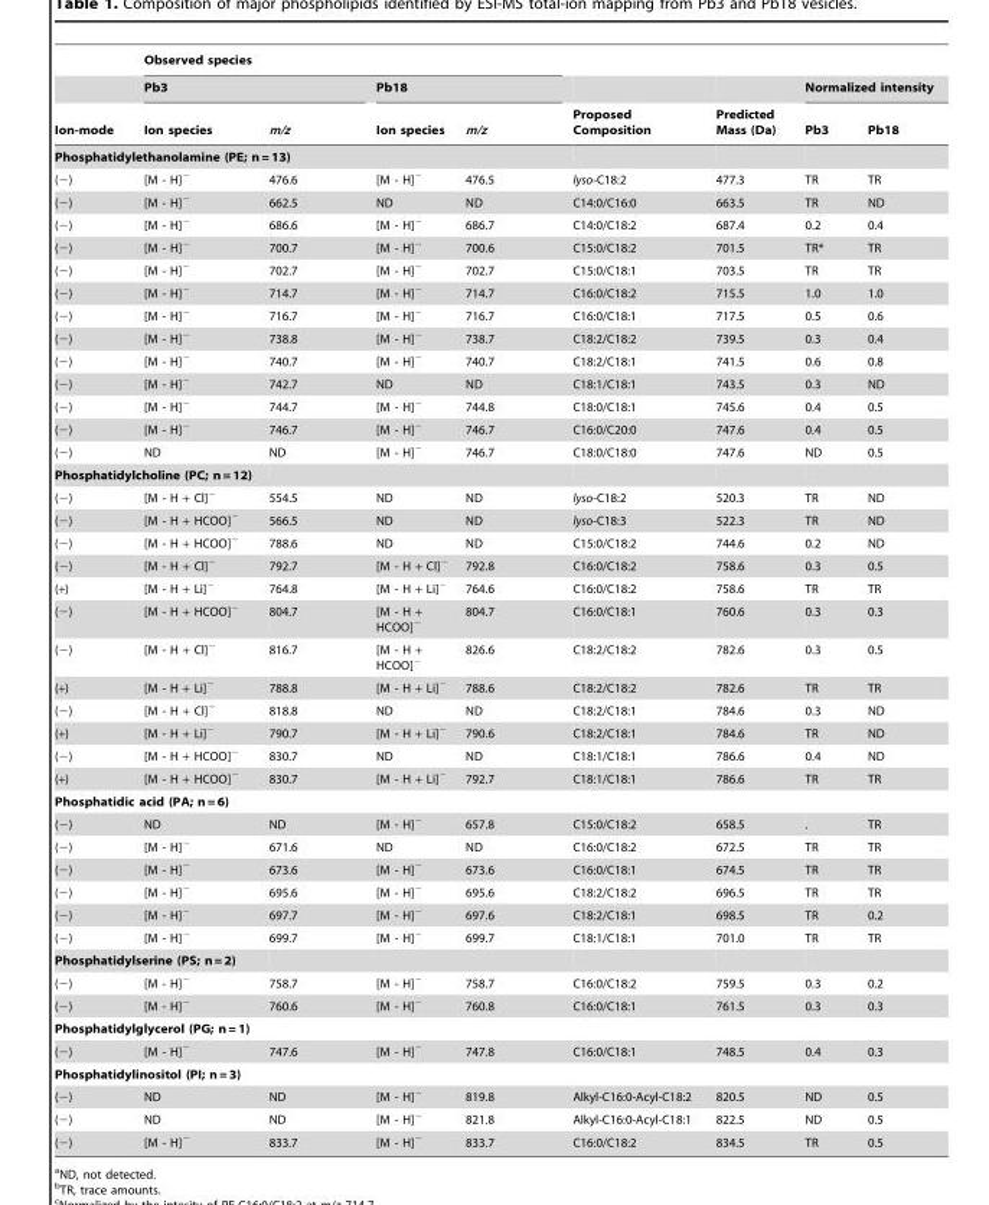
<table><thead><tr><td rowspan="3">Ion-mode</td><td colspan="4">Observed species</td><td rowspan="3">Proposed Composition</td><td rowspan="3">Predicted Mass (Da)</td><td></td><td></td></tr><tr><td colspan="2">Pb3</td><td colspan="2">Pb18</td><td colspan="2">Normalized intensity</td></tr><tr><td>Ion species</td><td>m/z</td><td>Ion species</td><td>m/z</td><td>Pb3</td><td>Pb18</td></tr></thead><tbody><tr><td colspan="9">Phosphatidylethanolamine (PE; n = 13)</td></tr><tr><td>(−)</td><td>[M - H]<sup>−</sup></td><td>476.6</td><td>[M - H]<sup>−</sup></td><td>476.5</td><td>lyso-C18:2</td><td>477.3</td><td>TR</td><td>TR</td></tr><tr><td>(−)</td><td>[M - H]<sup>−</sup></td><td>662.5</td><td>ND</td><td>ND</td><td>C14:0/C16:0</td><td>663.5</td><td>TR</td><td>ND</td></tr><tr><td>(−)</td><td>[M - H]<sup>−</sup></td><td>686.6</td><td>[M - H]<sup>−</sup></td><td>686.7</td><td>C14:0/C18:2</td><td>687.4</td><td>0.2</td><td>0.4</td></tr><tr><td>(−)</td><td>[M - H]<sup>−</sup></td><td>700.7</td><td>[M - H]<sup>−</sup></td><td>700.6</td><td>C15:0/C18:2</td><td>701.5</td><td>TR*</td><td>TR</td></tr><tr><td>(−)</td><td>[M - H]<sup>−</sup></td><td>702.7</td><td>[M - H]<sup>−</sup></td><td>702.7</td><td>C15:0/C18:1</td><td>703.5</td><td>TR</td><td>TR</td></tr><tr><td>(−)</td><td>[M - H]<sup>−</sup></td><td>714.7</td><td>[M - H]<sup>−</sup></td><td>714.7</td><td>C16:0/C18:2</td><td>715.5</td><td>1.0</td><td>1.0</td></tr><tr><td>(−)</td><td>[M - H]<sup>−</sup></td><td>716.7</td><td>[M - H]<sup>−</sup></td><td>716.7</td><td>C16:0/C18:1</td><td>717.5</td><td>0.5</td><td>0.6</td></tr><tr><td>(−)</td><td>[M - H]<sup>−</sup></td><td>738.8</td><td>[M - H]<sup>−</sup></td><td>738.7</td><td>C18:2/C18:2</td><td>739.5</td><td>0.3</td><td>0.4</td></tr><tr><td>(−)</td><td>[M - H]<sup>−</sup></td><td>740.7</td><td>[M - H]<sup>−</sup></td><td>740.7</td><td>C18:2/C18:1</td><td>741.5</td><td>0.6</td><td>0.8</td></tr><tr><td>(−)</td><td>[M - H]<sup>−</sup></td><td>742.7</td><td>ND</td><td>ND</td><td>C18:1/C18:1</td><td>743.5</td><td>0.3</td><td>ND</td></tr><tr><td>(−)</td><td>[M - H]<sup>−</sup></td><td>744.7</td><td>[M - H]<sup>−</sup></td><td>744.8</td><td>C18:0/C18:1</td><td>745.6</td><td>0.4</td><td>0.5</td></tr><tr><td>(−)</td><td>[M - H]<sup>−</sup></td><td>746.7</td><td>[M - H]<sup>−</sup></td><td>746.7</td><td>C16:0/C20:0</td><td>747.6</td><td>0.4</td><td>0.5</td></tr><tr><td>(−)</td><td>ND</td><td>ND</td><td>[M - H]<sup>−</sup></td><td>746.7</td><td>C18:0/C18:0</td><td>747.6</td><td>ND</td><td>0.5</td></tr><tr><td colspan="9">Phosphatidylcholine (PC; n = 12)</td></tr><tr><td>(−)</td><td>[M - H + Cl]<sup>−</sup></td><td>554.5</td><td>ND</td><td>ND</td><td>lyso-C18:2</td><td>520.3</td><td>TR</td><td>ND</td></tr><tr><td>(−)</td><td>[M - H + HCOO]<sup>−</sup></td><td>566.5</td><td>ND</td><td>ND</td><td>lyso-C18:3</td><td>522.3</td><td>TR</td><td>ND</td></tr><tr><td>(−)</td><td>[M - H + HCOO]<sup>−</sup></td><td>788.6</td><td>ND</td><td>ND</td><td>C15:0/C18:2</td><td>744.6</td><td>0.2</td><td>ND</td></tr><tr><td>(−)</td><td>[M - H + Cl]<sup>−</sup></td><td>792.7</td><td>[M - H + Cl]<sup>−</sup></td><td>792.8</td><td>C16:0/C18:2</td><td>758.6</td><td>0.3</td><td>0.5</td></tr><tr><td>(+)</td><td>[M - H + Li]<sup>−</sup></td><td>764.8</td><td>[M - H + Li]<sup>−</sup></td><td>764.6</td><td>C16:0/C18:2</td><td>758.6</td><td>TR</td><td>TR</td></tr><tr><td>(−)</td><td>[M - H + HCOO]<sup>−</sup></td><td>804.7</td><td>[M - H + HCOO]<sup>−</sup></td><td>804.7</td><td>C16:0/C18:1</td><td>760.6</td><td>0.3</td><td>0.3</td></tr><tr><td>(−)</td><td>[M - H + Cl]<sup>−</sup></td><td>816.7</td><td>[M - H + HCOO]<sup>−</sup></td><td>826.6</td><td>C18:2/C18:2</td><td>782.6</td><td>0.3</td><td>0.5</td></tr><tr><td>(+)</td><td>[M - H + Li]<sup>−</sup></td><td>788.8</td><td>[M - H + Li]<sup>−</sup></td><td>788.6</td><td>C18:2/C18:2</td><td>782.6</td><td>TR</td><td>TR</td></tr><tr><td>(−)</td><td>[M - H + Cl]<sup>−</sup></td><td>818.8</td><td>ND</td><td>ND</td><td>C18:2/C18:1</td><td>784.6</td><td>0.3</td><td>ND</td></tr><tr><td>(+)</td><td>[M - H + Li]<sup>−</sup></td><td>790.7</td><td>[M - H + Li]<sup>−</sup></td><td>790.6</td><td>C18:2/C18:1</td><td>784.6</td><td>TR</td><td>ND</td></tr><tr><td>(−)</td><td>[M - H + HCOO]<sup>−</sup></td><td>830.7</td><td>ND</td><td>ND</td><td>C18:1/C18:1</td><td>786.6</td><td>0.4</td><td>ND</td></tr><tr><td>(+)</td><td>[M - H + HCOO]<sup>−</sup></td><td>830.7</td><td>[M - H + Li]<sup>−</sup></td><td>792.7</td><td>C18:1/C18:1</td><td>786.6</td><td>TR</td><td>TR</td></tr><tr><td colspan="9">Phosphatidic acid (PA; n = 6)</td></tr><tr><td>(−)</td><td>ND</td><td>ND</td><td>[M - H]<sup>−</sup></td><td>657.8</td><td>C15:0/C18:2</td><td>658.5</td><td>.</td><td>TR</td></tr><tr><td>(−)</td><td>[M - H]<sup>−</sup></td><td>671.6</td><td>ND</td><td>ND</td><td>C16:0/C18:2</td><td>672.5</td><td>TR</td><td>TR</td></tr><tr><td>(−)</td><td>[M - H]<sup>−</sup></td><td>673.6</td><td>[M - H]<sup>−</sup></td><td>673.6</td><td>C16:0/C18:1</td><td>674.5</td><td>TR</td><td>TR</td></tr><tr><td>(−)</td><td>[M - H]<sup>−</sup></td><td>695.6</td><td>[M - H]<sup>−</sup></td><td>695.6</td><td>C18:2/C18:2</td><td>696.5</td><td>TR</td><td>TR</td></tr><tr><td>(−)</td><td>[M - H]<sup>−</sup></td><td>697.7</td><td>[M - H]<sup>−</sup></td><td>697.6</td><td>C18:2/C18:1</td><td>698.5</td><td>TR</td><td>0.2</td></tr><tr><td>(−)</td><td>[M - H]<sup>−</sup></td><td>699.7</td><td>[M - H]<sup>−</sup></td><td>699.7</td><td>C18:1/C18:1</td><td>701.0</td><td>TR</td><td>TR</td></tr><tr><td colspan="9">Phosphatidylserine (PS; n = 2)</td></tr><tr><td>(−)</td><td>[M - H]<sup>−</sup></td><td>758.7</td><td>[M - H]<sup>−</sup></td><td>758.7</td><td>C16:0/C18:2</td><td>759.5</td><td>0.3</td><td>0.2</td></tr><tr><td>(−)</td><td>[M - H]<sup>−</sup></td><td>760.6</td><td>[M - H]<sup>−</sup></td><td>760.8</td><td>C16:0/C18:1</td><td>761.5</td><td>0.3</td><td>0.3</td></tr><tr><td colspan="9">Phosphatidylglycerol (PG; n = 1)</td></tr><tr><td>(−)</td><td>[M - H]<sup>−</sup></td><td>747.6</td><td>[M - H]<sup>−</sup></td><td>747.8</td><td>C16:0/C18:1</td><td>748.5</td><td>0.4</td><td>0.3</td></tr><tr><td colspan="9">Phosphatidylinositol (PI; n = 3)</td></tr><tr><td>(−)</td><td>ND</td><td>ND</td><td>[M - H]<sup>−</sup></td><td>819.8</td><td>Alkyl-C16:0-Acyl-C18:2</td><td>820.5</td><td>ND</td><td>0.5</td></tr><tr><td>(−)</td><td>ND</td><td>ND</td><td>[M - H]<sup>−</sup></td><td>821.8</td><td>Alkyl-C16:0-Acyl-C18:1</td><td>822.5</td><td>ND</td><td>0.5</td></tr><tr><td>(−)</td><td>[M - H]<sup>−</sup></td><td>833.7</td><td>[M - H]<sup>−</sup></td><td>833.7</td><td>C16:0/C18:2</td><td>834.5</td><td>TR</td><td>0.5</td></tr></tbody></table>